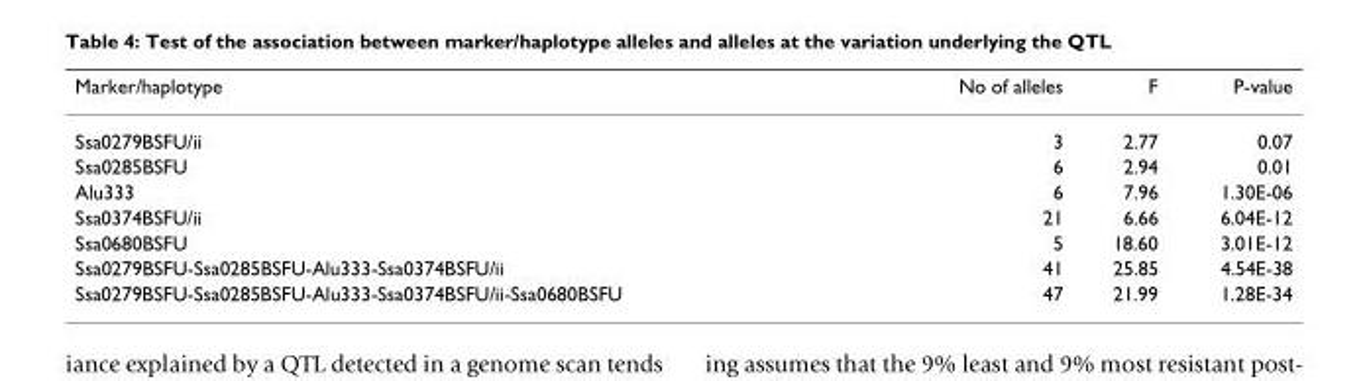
<table><thead><tr><td>Marker/haplotype</td><td>No of alleles</td><td>F</td><td>P-value</td></tr></thead><tbody><tr><td>Ssa0279BSFU/ii</td><td>3</td><td>2.77</td><td>0.07</td></tr><tr><td>Ssa0285BSFU</td><td>6</td><td>2.94</td><td>0.01</td></tr><tr><td>Alu333</td><td>6</td><td>7.96</td><td>1.30E-06</td></tr><tr><td>Ssa0374BSFU/ii</td><td>21</td><td>6.66</td><td>6.04E-12</td></tr><tr><td>Ssa0680BSFU</td><td>5</td><td>18.60</td><td>3.01E-12</td></tr><tr><td>Ssa0279BSFU-Ssa0285BSFU-Alu333-Ssa0374BSFU/ii</td><td>41</td><td>25.85</td><td>4.54E-38</td></tr><tr><td>Ssa0279BSFU-Ssa0285BSFU-Alu333-Ssa0374BSFU/ii-Ssa0680BSFU</td><td>47</td><td>21.99</td><td>1.28E-34</td></tr></tbody></table>